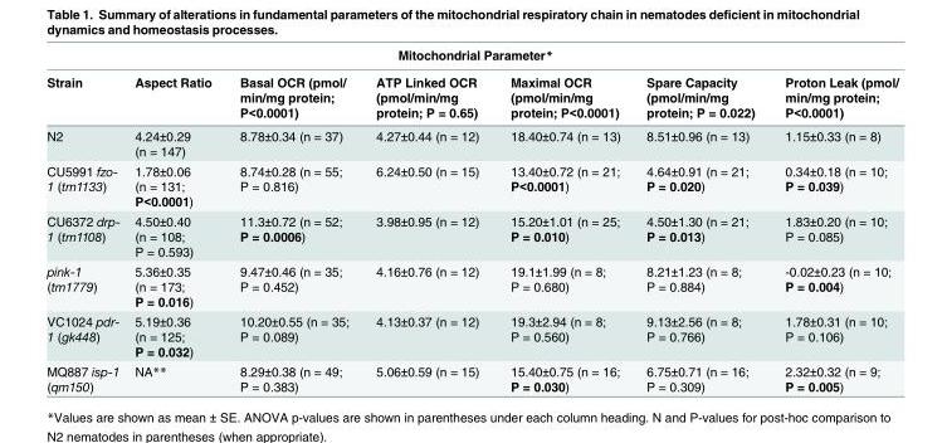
<table><thead><tr><td colspan="7">Mitochondrial Parameter*</td></tr><tr><td>Strain</td><td>Aspect Ratio</td><td>Basal OCR (pmol/ min/mg protein; P&lt;0.0001)</td><td>ATP Linked OCR (pmol/min/mg protein; P = 0.65)</td><td>Maximal OCR (pmol/min/mg protein; P&lt;0.0001)</td><td>Spare Capacity (pmol/min/mg protein; P = 0.022)</td><td>Proton Leak (pmol/ min/mg protein; P&lt;0.0001)</td></tr></thead><tbody><tr><td>N2</td><td>4.24±0.29 (n = 147)</td><td>8.78±0.34 (n = 37)</td><td>4.27±0.44 (n = 12)</td><td>18.40±0.74 (n = 13)</td><td>8.51±0.96 (n = 13)</td><td>1.15±0.33 (n = 8)</td></tr><tr><td>CU5991 fzo- 1 (tm1133)</td><td>1.78±0.06 (n = 131; P&lt;0.0001)</td><td>8.74±0.28 (n = 55; P = 0.816)</td><td>6.24±0.50 (n = 15)</td><td>13.40±0.72 (n = 21; P&lt;0.0001)</td><td>4.64±0.91 (n = 21; P = 0.020)</td><td>0.34±0.18 (n = 10; P = 0.039)</td></tr><tr><td>CU6372 drp- 1 (tm1108)</td><td>4.50±0.40 (n = 108; P = 0.593)</td><td>11.3±0.72 (n = 52; P = 0.0006)</td><td>3.98±0.95 (n = 12)</td><td>15.20±1.01 (n = 25; P = 0.010)</td><td>4.50±1.30 (n = 21; P = 0.013)</td><td>1.83±0.20 (n = 10; P = 0.085)</td></tr><tr><td>pink-1 (tm1779)</td><td>5.36±0.35 (n = 173; P = 0.016)</td><td>9.47±0.46 (n = 35; P = 0.452)</td><td>4.16±0.76 (n = 12)</td><td>19.1±1.99 (n = 8; P = 0.680)</td><td>8.21±1.23 (n = 8; P = 0.884)</td><td>-0.02±0.23 (n = 10; P = 0.004)</td></tr><tr><td>VC1024 pdr- 1 (gk448)</td><td>5.19±0.36 (n = 125; P = 0.032)</td><td>10.20±0.55 (n = 35; P = 0.089)</td><td>4.13±0.37 (n = 12)</td><td>19.3±2.94 (n = 8; P = 0.560)</td><td>9.13±2.56 (n = 8; P = 0.766)</td><td>1.78±0.31 (n = 10; P = 0.106)</td></tr><tr><td>MQ887 isp-1 (qm150)</td><td>NA**</td><td>8.29±0.38 (n = 49; P = 0.383)</td><td>5.06±0.59 (n = 15)</td><td>15.40±0.75 (n = 16; P = 0.030)</td><td>6.75±0.71 (n = 16; P = 0.309)</td><td>2.32±0.32 (n = 9; P = 0.005)</td></tr></tbody></table>